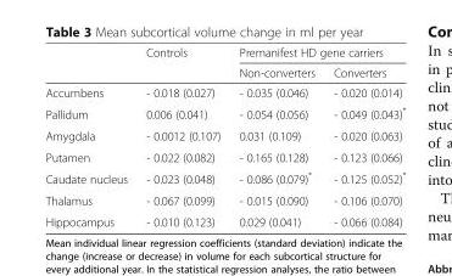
<table><thead><tr><td rowspan="2"></td><td rowspan="2">Controls</td><td colspan="2">Premanifest HD gene carriers</td></tr><tr><td>Non-converters</td><td>Converters</td></tr></thead><tbody><tr><td>Accumbens</td><td>- 0.018 (0.027)</td><td>- 0.035 (0.046)</td><td>- 0.020 (0.014)</td></tr><tr><td>Pallidum</td><td>0.006 (0.041)</td><td>- 0.054 (0.056)</td><td>- 0.049 (0.043)*</td></tr><tr><td>Amygdala</td><td>- 0.0012 (0.107)</td><td>0.031 (0.109)</td><td>- 0.020 (0.063)</td></tr><tr><td>Putamen</td><td>- 0.022 (0.082)</td><td>- 0.165 (0.128)</td><td>- 0.123 (0.066)</td></tr><tr><td>Caudate nucleus</td><td>- 0.023 (0.048)</td><td>- 0.086 (0.079)*</td><td>- 0.125 (0.052)*</td></tr><tr><td>Thalamus</td><td>- 0.067 (0.099)</td><td>- 0.015 (0.090)</td><td>- 0.106 (0.070)</td></tr><tr><td>Hippocampus</td><td>- 0.010 (0.123)</td><td>0.029 (0.041)</td><td>- 0.066 (0.084)</td></tr></tbody></table>